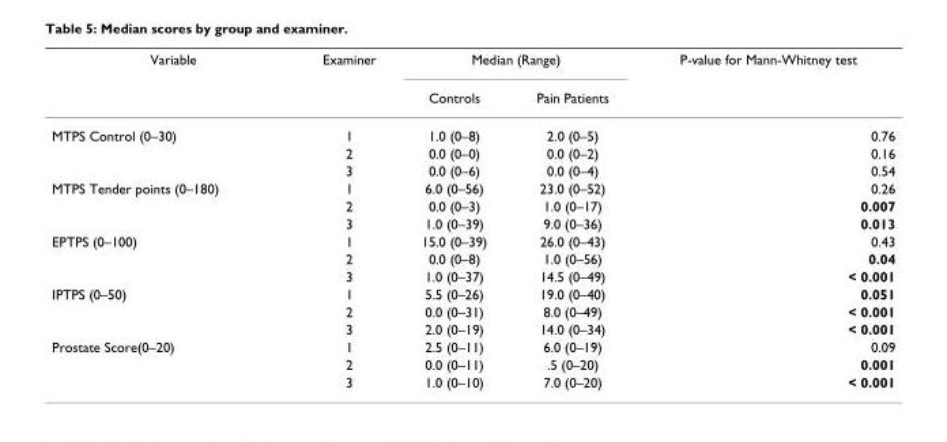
<table><thead><tr><td rowspan="2">Variable</td><td rowspan="2">Examiner</td><td colspan="2">Median (Range)</td><td rowspan="2">P-value for Mann-Whitney test</td></tr><tr><td>Controls</td><td>Pain Patients</td></tr></thead><tbody><tr><td rowspan="3">MTPS Control (0–30)</td><td>1</td><td>1.0 (0–8)</td><td>2.0 (0–5)</td><td>0.76</td></tr><tr><td>2</td><td>0.0 (0–0)</td><td>0.0 (0–2)</td><td>0.16</td></tr><tr><td>3</td><td>0.0 (0–6)</td><td>0.0 (0–4)</td><td>0.54</td></tr><tr><td rowspan="3">MTPS Tender points (0–180)</td><td>1</td><td>6.0 (0–56)</td><td>23.0 (0–52)</td><td>0.26</td></tr><tr><td>2</td><td>0.0 (0–3)</td><td>1.0 (0–17)</td><td>0.007</td></tr><tr><td>3</td><td>1.0 (0–39)</td><td>9.0 (0–36)</td><td>0.013</td></tr><tr><td rowspan="3">EPTPS (0–100)</td><td>1</td><td>15.0 (0–39)</td><td>26.0 (0–43)</td><td>0.43</td></tr><tr><td>2</td><td>0.0 (0–8)</td><td>1.0 (0–56)</td><td>0.04</td></tr><tr><td>3</td><td>1.0 (0–37)</td><td>14.5 (0–49)</td><td>&lt; 0.001</td></tr><tr><td rowspan="3">IPTPS (0–50)</td><td>1</td><td>5.5 (0–26)</td><td>19.0 (0–40)</td><td>0.051</td></tr><tr><td>2</td><td>0.0 (0–31)</td><td>8.0 (0–49)</td><td>&lt; 0.001</td></tr><tr><td>3</td><td>2.0 (0–19)</td><td>14.0 (0–34)</td><td>&lt; 0.001</td></tr><tr><td rowspan="3">Prostate Score(0–20)</td><td>1</td><td>2.5 (0–11)</td><td>6.0 (0–19)</td><td>0.09</td></tr><tr><td>2</td><td>0.0 (0–11)</td><td>.5 (0–20)</td><td>0.001</td></tr><tr><td>3</td><td>1.0 (0–10)</td><td>7.0 (0–20)</td><td>&lt; 0.001</td></tr></tbody></table>